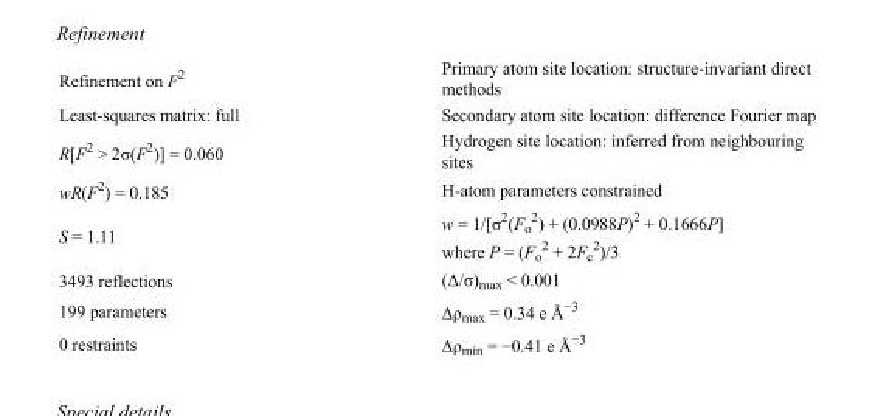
<table><tbody><tr><td>Refinement on F<sup>2</sup></td><td>Primary atom site location: structure-invariant direct methods</td></tr><tr><td>Least-squares matrix: full</td><td>Secondary atom site location: difference Fourier map</td></tr><tr><td>R[F<sup>2</sup> &gt; 2σ(F<sup>2</sup>)] = 0.060</td><td>Hydrogen site location: inferred from neighbouring sites</td></tr><tr><td>wR(F<sup>2</sup>) = 0.185</td><td>H-atom parameters constrained</td></tr><tr><td>S = 1.11</td><td>w = 1/[σ<sup>2</sup>(F<sub>o</sub> <sup>2</sup>) + (0.0988P)<sup>2</sup> + 0.1666P] where P = (F<sub>o</sub> <sup>2</sup> + 2F<sub>c</sub> <sup>2</sup>)/3</td></tr><tr><td>3493 reflections</td><td>(Δ/σ)<sub>max</sub> &lt; 0.001</td></tr><tr><td>199 parameters</td><td>Δρ<sub>max</sub> = 0.34 e Å<sup>−3</sup></td></tr><tr><td>0 restraints</td><td>Δρ<sub>min</sub> = −0.41 e Å<sup>−3</sup></td></tr></tbody></table>